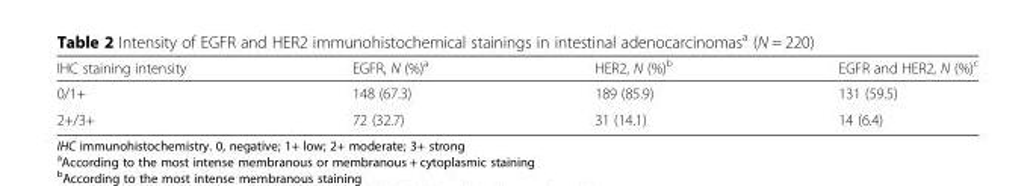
<table><thead><tr><td>IHC staining intensity</td><td>EGFR, N (%)<sup>a</sup></td><td>HER2, N (%)<sup>b</sup></td><td>EGFR and HER2, N (%)<sup>c</sup></td></tr></thead><tbody><tr><td>0/1+</td><td>148 (67.3)</td><td>189 (85.9)</td><td>131 (59.5)</td></tr><tr><td>2+/3+</td><td>72 (32.7)</td><td>31 (14.1)</td><td>14 (6.4)</td></tr></tbody></table>